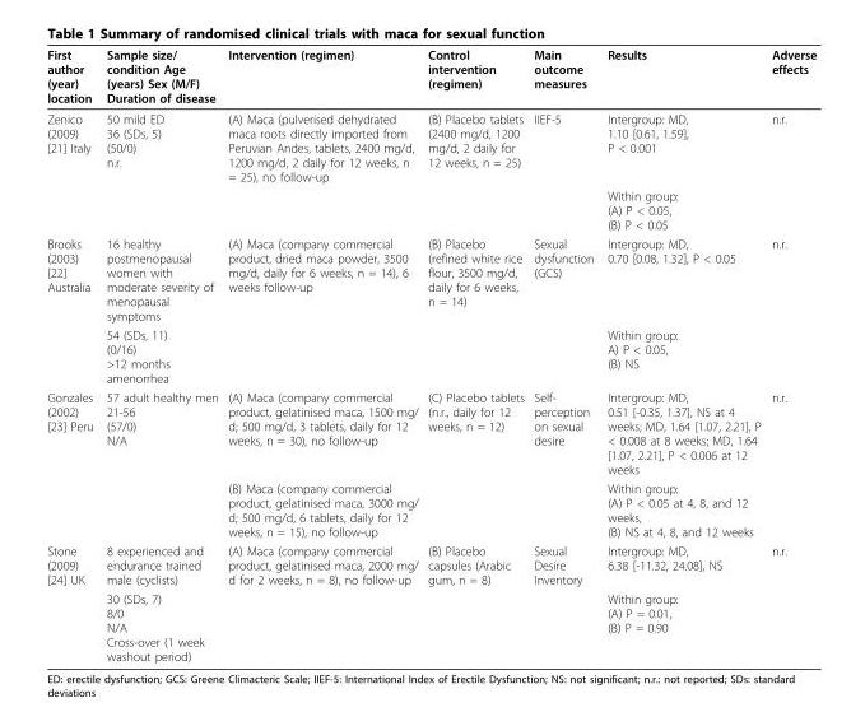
<table><thead><tr><td>First author (year) location</td><td>Sample size/ condition Age (years) Sex (M/F) Duration of disease</td><td>Intervention (regimen)</td><td>Control intervention (regimen)</td><td>Main outcome measures</td><td>Results</td><td>Adverse effects</td></tr></thead><tbody><tr><td rowspan="2">Zenico (2009) [21] Italy</td><td>50 mild ED 36 (SDs, 5) (50/0) n.r.</td><td>(A) Maca (pulverised dehydrated maca roots directly imported from Peruvian Andes, tablets, 2400 mg/d, 1200 mg/d, 2 daily for 12 weeks, n = 25), no follow-up</td><td>(B) Placebo tablets (2400 mg/d, 1200 mg/d, 2 daily for 12 weeks, n = 25)</td><td>IIEF-5</td><td>Intergroup: MD, 1.10 [0.61, 1.59], P &lt; 0.001</td><td>n.r.</td></tr><tr><td></td><td></td><td></td><td></td><td>Within group: (A) P &lt; 0.05, (B) P &lt; 0.05</td><td></td></tr><tr><td rowspan="2">Brooks (2003) [22] Australia</td><td>16 healthy postmenopausal women with moderate severity of menopausal symptoms</td><td>(A) Maca (company commercial product, dried maca powder, 3500 mg/d, daily for 6 weeks, n = 14), 6 weeks follow-up</td><td>(B) Placebo (refined white rice flour, 3500 mg/d, daily for 6 weeks, n = 14)</td><td>Sexual dysfunction (GCS)</td><td>Intergroup: MD, 0.70 [0.08, 1.32], P &lt; 0.05</td><td>n.r.</td></tr><tr><td>54 (SDs, 11) (0/16) &gt;12 months amenorrhea</td><td></td><td></td><td></td><td>Within group: A) P &lt; 0.05, (B) NS</td><td></td></tr><tr><td rowspan="2">Gonzales (2002) [23] Peru</td><td>57 adult healthy men 21-56 (57/0) N/A</td><td>(A) Maca (company commercial product, gelatinised maca, 1500 mg/ d; 500 mg/d, 3 tablets, daily for 12 weeks, n = 30), no follow-up</td><td>(C) Placebo tablets (n.r., daily for 12 weeks, n = 12)</td><td>Self- perception on sexual desire</td><td>Intergroup: MD, 0.51 [-0.35, 1.37], NS at 4 weeks; MD, 1.64 [1.07, 2.21], P &lt; 0.008 at 8 weeks; MD, 1.64 [1.07, 2.21], P &lt; 0.006 at 12 weeks</td><td>n.r.</td></tr><tr><td></td><td>(B) Maca (company commercial product, gelatinised maca, 3000 mg/ d; 500 mg/d, 6 tablets, daily for 12 weeks, n = 15), no follow-up</td><td></td><td></td><td>Within group: (A) P &lt; 0.05 at 4, 8, and 12 weeks, (B) NS at 4, 8, and 12 weeks</td><td></td></tr><tr><td rowspan="2">Stone (2009) [24] UK</td><td>8 experienced and endurance trained male (cyclists)</td><td>(A) Maca (company commercial product, gelatinised maca, 2000 mg/ d for 2 weeks, n = 8), no follow-up</td><td>(B) Placebo capsules (Arabic gum, n = 8)</td><td>Sexual Desire Inventory</td><td>Intergroup: MD, 6.38 [-11.32, 24.08], NS</td><td>n.r.</td></tr><tr><td>30 (SDs, 7) 8/0 N/A Cross-over (1 week washout period)</td><td></td><td></td><td></td><td>Within group: (A) P = 0.01, (B) P = 0.90</td><td></td></tr></tbody></table>